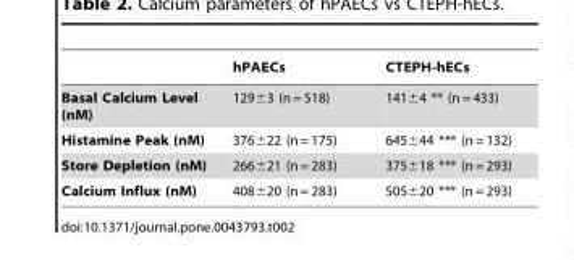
<table><thead><tr><td></td><td>hPAECs</td><td>CTEPH-hECs</td></tr></thead><tbody><tr><td>Basal Calcium Level (nM)</td><td>129±3 (n = 518)</td><td>141±4 ** (n = 433)</td></tr><tr><td>Histamine Peak (nM)</td><td>376±22 (n = 175)</td><td>645±44 *** (n = 132)</td></tr><tr><td>Store Depletion (nM)</td><td>266±21 (n = 283)</td><td>375±18 *** (n = 293)</td></tr><tr><td>Calcium Influx (nM)</td><td>408±20 (n = 283)</td><td>505±20 *** (n = 293)</td></tr></tbody></table>